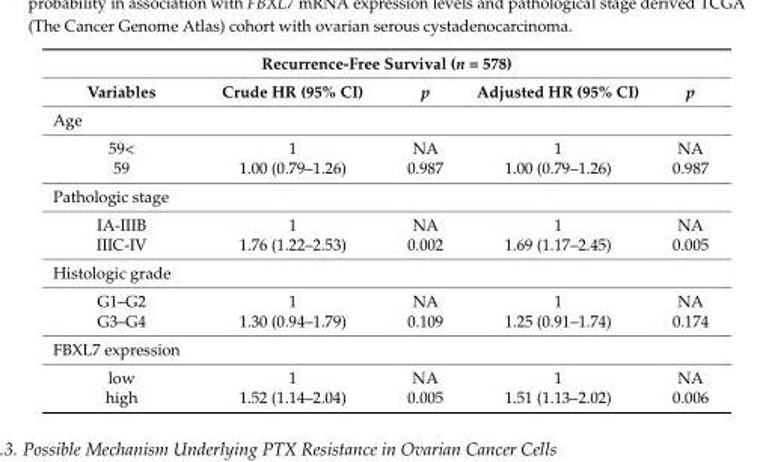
<table><thead><tr><td colspan="5">Recurrence-Free Survival (n = 578)</td></tr><tr><td>Variables</td><td>Crude HR (95% CI)</td><td>p</td><td>Adjusted HR (95% CI)</td><td>p</td></tr></thead><tbody><tr><td colspan="5">Age</td></tr><tr><td>59&lt;</td><td>1</td><td>NA</td><td>1</td><td>NA</td></tr><tr><td>59</td><td>1.00 (0.79–1.26)</td><td>0.987</td><td>1.00 (0.79–1.26)</td><td>0.987</td></tr><tr><td colspan="5">Pathologic stage</td></tr><tr><td>IA-IIIB</td><td>1</td><td>NA</td><td>1</td><td>NA</td></tr><tr><td>IIIC-IV</td><td>1.76 (1.22–2.53)</td><td>0.002</td><td>1.69 (1.17–2.45)</td><td>0.005</td></tr><tr><td colspan="5">Histologic grade</td></tr><tr><td>G1–G2</td><td>1</td><td>NA</td><td>1</td><td>NA</td></tr><tr><td>G3–G4</td><td>1.30 (0.94–1.79)</td><td>0.109</td><td>1.25 (0.91–1.74)</td><td>0.174</td></tr><tr><td colspan="5">FBXL7 expression</td></tr><tr><td>low</td><td>1</td><td>NA</td><td>1</td><td>NA</td></tr><tr><td>high</td><td>1.52 (1.14–2.04)</td><td>0.005</td><td>1.51 (1.13–2.02)</td><td>0.006</td></tr></tbody></table>